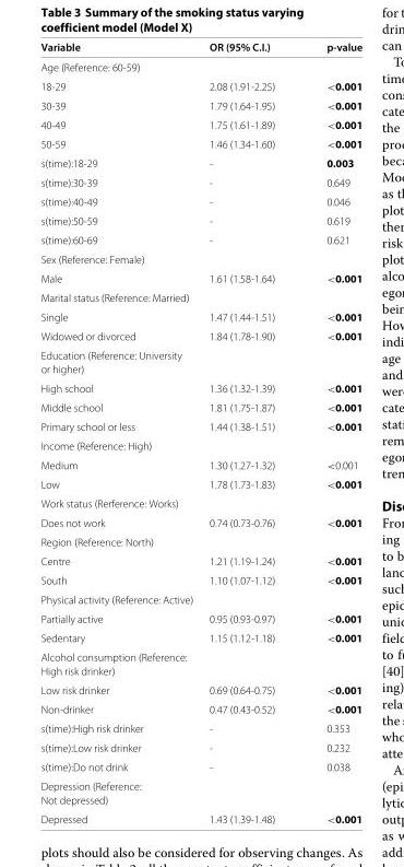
<table><thead><tr><td>Variable</td><td>OR (95% C.I.)</td><td>p-value</td></tr></thead><tbody><tr><td colspan="3">Age (Reference: 60-59)</td></tr><tr><td>18-29</td><td>2.08 (1.91-2.25)</td><td>&lt;0.001</td></tr><tr><td>30-39</td><td>1.79 (1.64-1.95)</td><td>&lt;0.001</td></tr><tr><td>40-49</td><td>1.75 (1.61-1.89)</td><td>&lt;0.001</td></tr><tr><td>50-59</td><td>1.46 (1.34-1.60)</td><td>&lt;0.001</td></tr><tr><td>s(time):18-29</td><td>-</td><td>0.003</td></tr><tr><td>s(time):30-39</td><td>-</td><td>0.649</td></tr><tr><td>s(time):40-49</td><td>-</td><td>0.046</td></tr><tr><td>s(time):50-59</td><td>-</td><td>0.619</td></tr><tr><td>s(time):60-69</td><td>-</td><td>0.621</td></tr><tr><td colspan="3">Sex (Reference: Female)</td></tr><tr><td>Male</td><td>1.61 (1.58-1.64)</td><td>&lt;0.001</td></tr><tr><td colspan="3">Marital status (Reference: Married)</td></tr><tr><td>Single</td><td>1.47 (1.44-1.51)</td><td>&lt;0.001</td></tr><tr><td>Widowed or divorced</td><td>1.84 (1.78-1.90)</td><td>&lt;0.001</td></tr><tr><td colspan="3">Education (Reference: University</td></tr><tr><td colspan="3">or higher)</td></tr><tr><td>High school</td><td>1.36 (1.32-1.39)</td><td>&lt;0.001</td></tr><tr><td>Middle school</td><td>1.81 (1.75-1.87)</td><td>&lt;0.001</td></tr><tr><td>Primary school or less</td><td>1.44 (1.38-1.51)</td><td>&lt;0.001</td></tr><tr><td colspan="3">Income (Reference: High)</td></tr><tr><td>Medium</td><td>1.30 (1.27-1.32)</td><td>&lt;0.001</td></tr><tr><td>Low</td><td>1.78 (1.73-1.83)</td><td>&lt;0.001</td></tr><tr><td colspan="3">Work status (Rerference: Works)</td></tr><tr><td>Does not work</td><td>0.74 (0.73-0.76)</td><td>&lt;0.001</td></tr><tr><td colspan="3">Region (Reference: North)</td></tr><tr><td>Centre</td><td>1.21 (1.19-1.24)</td><td>&lt;0.001</td></tr><tr><td>South</td><td>1.10 (1.07-1.12)</td><td>&lt;0.001</td></tr><tr><td colspan="3">Physical activity (Reference: Active)</td></tr><tr><td>Partially active</td><td>0.95 (0.93-0.97)</td><td>&lt;0.001</td></tr><tr><td>Sedentary</td><td>1.15 (1.12-1.18)</td><td>&lt;0.001</td></tr><tr><td colspan="3">Alcohol consumption (Reference:</td></tr><tr><td colspan="3">High risk drinker)</td></tr><tr><td>Low risk drinker</td><td>0.69 (0.64-0.75)</td><td>&lt;0.001</td></tr><tr><td>Non-drinker</td><td>0.47 (0.43-0.52)</td><td>&lt;0.001</td></tr><tr><td>s(time):High risk drinker</td><td>-</td><td>0.353</td></tr><tr><td>s(time):Low risk drinker</td><td>-</td><td>0.232</td></tr><tr><td>s(time):Do not drink</td><td>-</td><td>0.038</td></tr><tr><td colspan="3">Depression (Reference:</td></tr><tr><td colspan="3">Not depressed)</td></tr><tr><td>Depressed</td><td>1.43 (1.39-1.48)</td><td>&lt;0.001</td></tr></tbody></table>